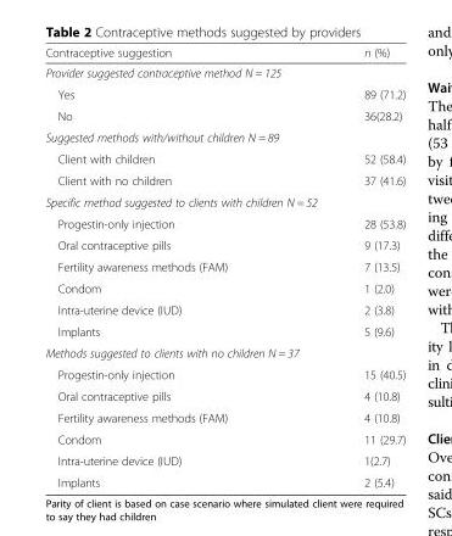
<table><thead><tr><td>Contraceptive suggestion</td><td>n (%)</td></tr></thead><tbody><tr><td colspan="2">Provider suggested contraceptive method N = 125</td></tr><tr><td>Yes</td><td>89 (71.2)</td></tr><tr><td>No</td><td>36(28.2)</td></tr><tr><td colspan="2">Suggested methods with/without children N = 89</td></tr><tr><td>Client with children</td><td>52 (58.4)</td></tr><tr><td>Client with no children</td><td>37 (41.6)</td></tr><tr><td colspan="2">Specific method suggested to clients with children N = 52</td></tr><tr><td>Progestin-only injection</td><td>28 (53.8)</td></tr><tr><td>Oral contraceptive pills</td><td>9 (17.3)</td></tr><tr><td>Fertility awareness methods (FAM)</td><td>7 (13.5)</td></tr><tr><td>Condom</td><td>1 (2.0)</td></tr><tr><td>Intra-uterine device (IUD)</td><td>2 (3.8)</td></tr><tr><td>Implants</td><td>5 (9.6)</td></tr><tr><td colspan="2">Methods suggested to clients with no children N = 37</td></tr><tr><td>Progestin-only injection</td><td>15 (40.5)</td></tr><tr><td>Oral contraceptive pills</td><td>4 (10.8)</td></tr><tr><td>Fertility awareness methods (FAM)</td><td>4 (10.8)</td></tr><tr><td>Condom</td><td>11 (29.7)</td></tr><tr><td>Intra-uterine device (IUD)</td><td>1(2.7)</td></tr><tr><td>Implants</td><td>2 (5.4)</td></tr></tbody></table>